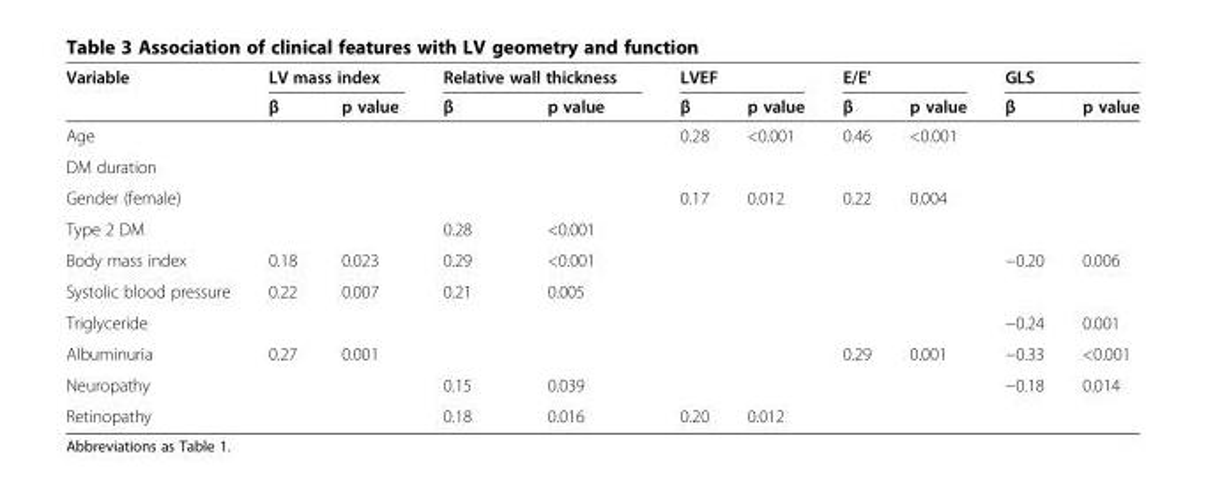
<table><thead><tr><td rowspan="2">Variable</td><td colspan="2">LV mass index</td><td colspan="2">Relative wall thickness</td><td colspan="2">LVEF</td><td colspan="2">E/E’</td><td colspan="2">GLS</td></tr><tr><td>β</td><td>p value</td><td>β</td><td>p value</td><td>β</td><td>p value</td><td>β</td><td>p value</td><td>β</td><td>p value</td></tr></thead><tbody><tr><td>Age</td><td></td><td></td><td></td><td></td><td>0.28</td><td>&lt;0.001</td><td>0.46</td><td>&lt;0.001</td><td></td><td></td></tr><tr><td colspan="11">DM duration</td></tr><tr><td>Gender (female)</td><td></td><td></td><td></td><td></td><td>0.17</td><td>0.012</td><td>0.22</td><td>0.004</td><td></td><td></td></tr><tr><td>Type 2 DM</td><td></td><td></td><td>0.28</td><td>&lt;0.001</td><td></td><td></td><td></td><td></td><td></td><td></td></tr><tr><td>Body mass index</td><td>0.18</td><td>0.023</td><td>0.29</td><td>&lt;0.001</td><td></td><td></td><td></td><td></td><td>−0.20</td><td>0.006</td></tr><tr><td>Systolic blood pressure</td><td>0.22</td><td>0.007</td><td>0.21</td><td>0.005</td><td></td><td></td><td></td><td></td><td></td><td></td></tr><tr><td>Triglyceride</td><td></td><td></td><td></td><td></td><td></td><td></td><td></td><td></td><td>−0.24</td><td>0.001</td></tr><tr><td>Albuminuria</td><td>0.27</td><td>0.001</td><td></td><td></td><td></td><td></td><td>0.29</td><td>0.001</td><td>−0.33</td><td>&lt;0.001</td></tr><tr><td>Neuropathy</td><td></td><td></td><td>0.15</td><td>0.039</td><td></td><td></td><td></td><td></td><td>−0.18</td><td>0.014</td></tr><tr><td>Retinopathy</td><td></td><td></td><td>0.18</td><td>0.016</td><td>0.20</td><td>0.012</td><td></td><td></td><td></td><td></td></tr></tbody></table>